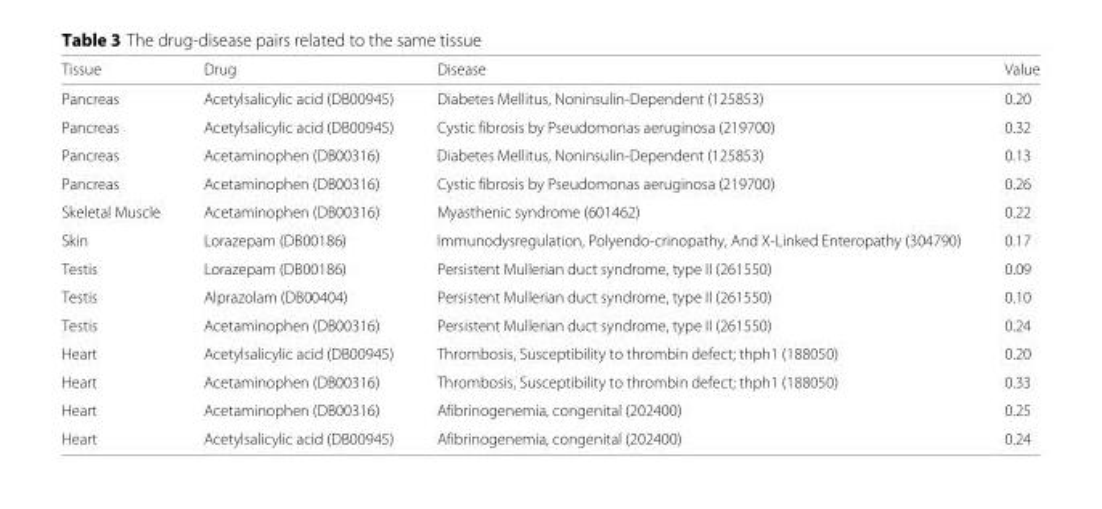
<table><thead><tr><td>Tissue</td><td>Drug</td><td>Disease</td><td>Value</td></tr></thead><tbody><tr><td>Pancreas</td><td>Acetylsalicylic acid (DB00945)</td><td>Diabetes Mellitus, Noninsulin-Dependent (125853)</td><td>0.20</td></tr><tr><td>Pancreas</td><td>Acetylsalicylic acid (DB00945)</td><td>Cystic fibrosis by Pseudomonas aeruginosa (219700)</td><td>0.32</td></tr><tr><td>Pancreas</td><td>Acetaminophen (DB00316)</td><td>Diabetes Mellitus, Noninsulin-Dependent (125853)</td><td>0.13</td></tr><tr><td>Pancreas</td><td>Acetaminophen (DB00316)</td><td>Cystic fibrosis by Pseudomonas aeruginosa (219700)</td><td>0.26</td></tr><tr><td>Skeletal Muscle</td><td>Acetaminophen (DB00316)</td><td>Myasthenic syndrome (601462)</td><td>0.22</td></tr><tr><td>Skin</td><td>Lorazepam (DB00186)</td><td>Immunodysregulation, Polyendo-crinopathy, And X-Linked Enteropathy (304790)</td><td>0.17</td></tr><tr><td>Testis</td><td>Lorazepam (DB00186)</td><td>Persistent Mullerian duct syndrome, type II (261550)</td><td>0.09</td></tr><tr><td>Testis</td><td>Alprazolam (DB00404)</td><td>Persistent Mullerian duct syndrome, type II (261550)</td><td>0.10</td></tr><tr><td>Testis</td><td>Acetaminophen (DB00316)</td><td>Persistent Mullerian duct syndrome, type II (261550)</td><td>0.24</td></tr><tr><td>Heart</td><td>Acetylsalicylic acid (DB00945)</td><td>Thrombosis, Susceptibility to thrombin defect; thph1 (188050)</td><td>0.20</td></tr><tr><td>Heart</td><td>Acetaminophen (DB00316)</td><td>Thrombosis, Susceptibility to thrombin defect; thph1 (188050)</td><td>0.33</td></tr><tr><td>Heart</td><td>Acetaminophen (DB00316)</td><td>Afibrinogenemia, congenital (202400)</td><td>0.25</td></tr><tr><td>Heart</td><td>Acetylsalicylic acid (DB00945)</td><td>Afibrinogenemia, congenital (202400)</td><td>0.24</td></tr></tbody></table>